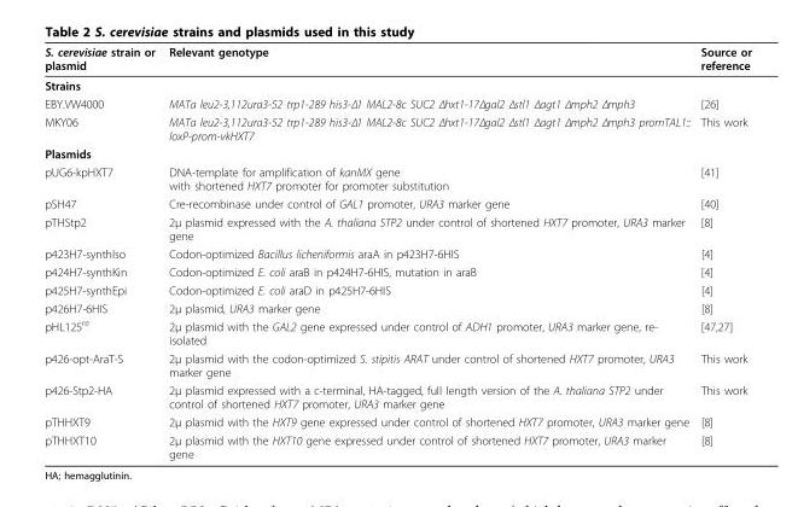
<table><thead><tr><td>S. cerevisiae strain or plasmid</td><td>Relevant genotype</td><td>Source or reference</td></tr></thead><tbody><tr><td colspan="3">Strains</td></tr><tr><td>EBY.VW4000</td><td>MATa leu2-3,112ura3-52 trp1-289 his3-Δ1 MAL2-8c SUC2 Δhxt1-17Δgal2 Δstl1 Δagt1 Δmph2 Δmph3</td><td>[26]</td></tr><tr><td>MKY06</td><td>MATa leu2-3,112ura3-52 trp1-289 his3-Δ1 MAL2-8c SUC2 Δhxt1-17Δgal2 Δstl1 Δagt1 Δmph2 Δmph3 promTAL1:: loxP-prom-vkHXT7</td><td>This work</td></tr><tr><td colspan="3">Plasmids</td></tr><tr><td>pUG6-kpHXT7</td><td>DNA-template for amplification of kanMX gene with shortened HXT7 promoter for promoter substitution</td><td>[41]</td></tr><tr><td>pSH47</td><td>Cre-recombinase under control of GAL1 promoter, URA3 marker gene</td><td>[40]</td></tr><tr><td>pTHStp2</td><td>2μ plasmid expressed with the A. thaliana STP2 under control of shortened HXT7 promoter, URA3 marker gene</td><td>[8]</td></tr><tr><td>p423H7-synthIso</td><td>Codon-optimized Bacillus licheniformis araA in p423H7-6HIS</td><td>[4]</td></tr><tr><td>p424H7-synthKin</td><td>Codon-optimized E. coli araB in p424H7-6HIS, mutation in araB</td><td>[4]</td></tr><tr><td>p425H7-synthEpi</td><td>Codon-optimized E. coli araD in p425H7-6HIS</td><td>[4]</td></tr><tr><td>p426H7-6HIS</td><td>2μ plasmid, URA3 marker gene</td><td>[8]</td></tr><tr><td>pHL125<sup>re</sup></td><td>2μ plasmid with the GAL2 gene expressed under control of ADH1 promoter, URA3 marker gene, re- isolated</td><td>[47,27]</td></tr><tr><td>p426-opt-AraT-S</td><td>2μ plasmid with the codon-optimized S. stipitis ARAT under control of shortened HXT7 promoter, URA3 marker gene</td><td>This work</td></tr><tr><td>p426-Stp2-HA</td><td>2μ plasmid expressed with a c-terminal, HA-tagged, full length version of the A. thaliana STP2 under control of shortened HXT7 promoter, URA3 marker gene</td><td>This work</td></tr><tr><td>pTHHXT9</td><td>2μ plasmid with the HXT9 gene expressed under control of shortened HXT7 promoter, URA3 marker gene</td><td>[8]</td></tr><tr><td>pTHHXT10</td><td>2μ plasmid with the HXT10 gene expressed under control of shortened HXT7 promoter, URA3 marker gene</td><td>[8]</td></tr></tbody></table>